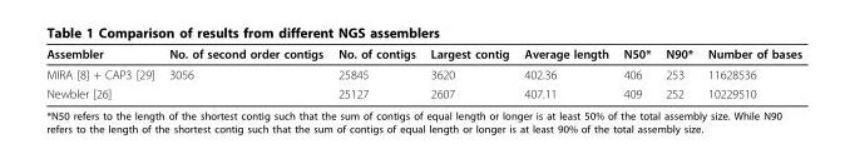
<table><thead><tr><td>Assembler</td><td>No. of second order contigs</td><td>No. of contigs</td><td>Largest contig</td><td>Average length</td><td>N50*</td><td>N90*</td><td>Number of bases</td></tr></thead><tbody><tr><td>MIRA [8] + CAP3 [29]</td><td>3056</td><td>25845</td><td>3620</td><td>402.36</td><td>406</td><td>253</td><td>11628536</td></tr><tr><td>Newbler [26]</td><td></td><td>25127</td><td>2607</td><td>407.11</td><td>409</td><td>252</td><td>10229510</td></tr></tbody></table>